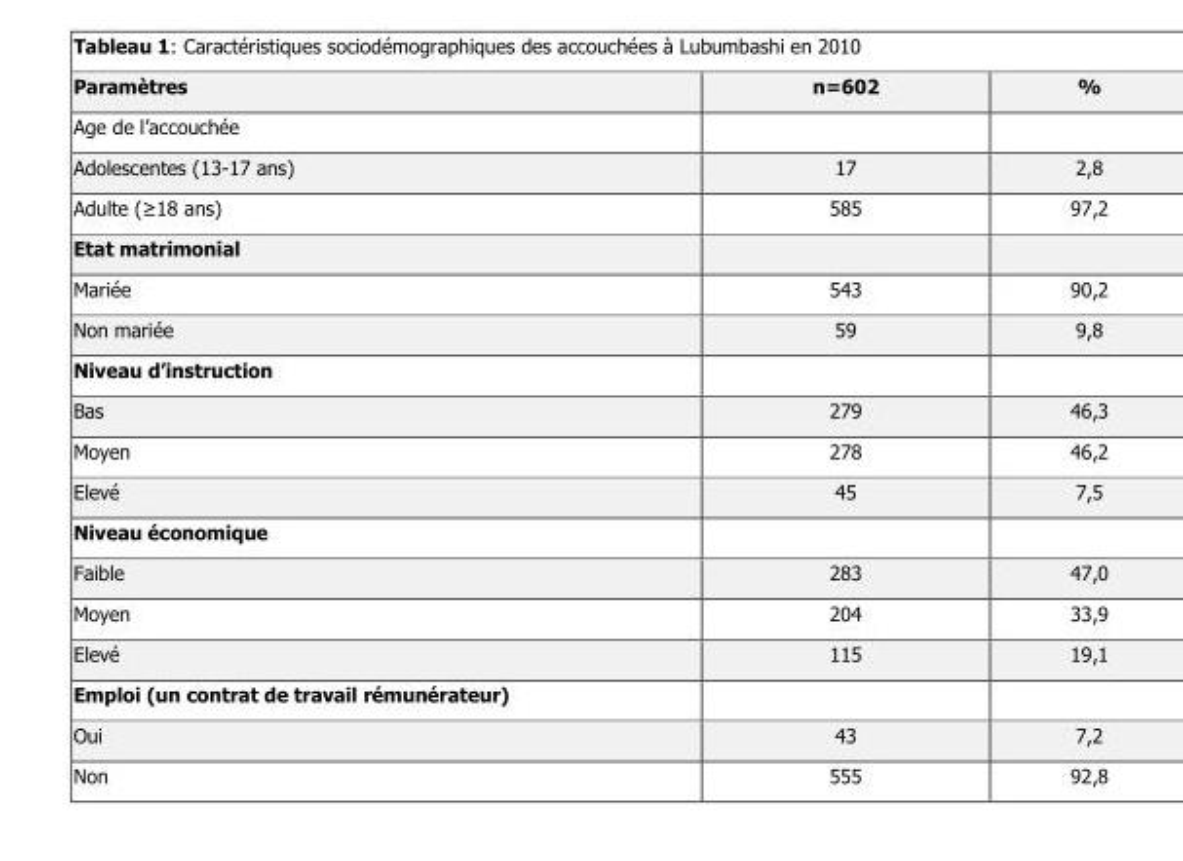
<table><thead><tr><td>Paramètres</td><td>n=602</td><td>%</td></tr></thead><tbody><tr><td colspan="3">Age de l’accouchée</td></tr><tr><td>Adolescentes (13-17 ans)</td><td>17</td><td>2,8</td></tr><tr><td>Adulte (≥18 ans)</td><td>585</td><td>97,2</td></tr><tr><td colspan="3">Etat matrimonial</td></tr><tr><td>Mariée</td><td>543</td><td>90,2</td></tr><tr><td>Non mariée</td><td>59</td><td>9,8</td></tr><tr><td colspan="3">Niveau d’instruction</td></tr><tr><td>Bas</td><td>279</td><td>46,3</td></tr><tr><td>Moyen</td><td>278</td><td>46,2</td></tr><tr><td>Elevé</td><td>45</td><td>7,5</td></tr><tr><td colspan="3">Niveau économique</td></tr><tr><td>Faible</td><td>283</td><td>47,0</td></tr><tr><td>Moyen</td><td>204</td><td>33,9</td></tr><tr><td>Elevé</td><td>115</td><td>19,1</td></tr><tr><td colspan="3">Emploi (un contrat de travail rémunérateur)</td></tr><tr><td>Oui</td><td>43</td><td>7,2</td></tr><tr><td>Non</td><td>555</td><td>92,8</td></tr></tbody></table>